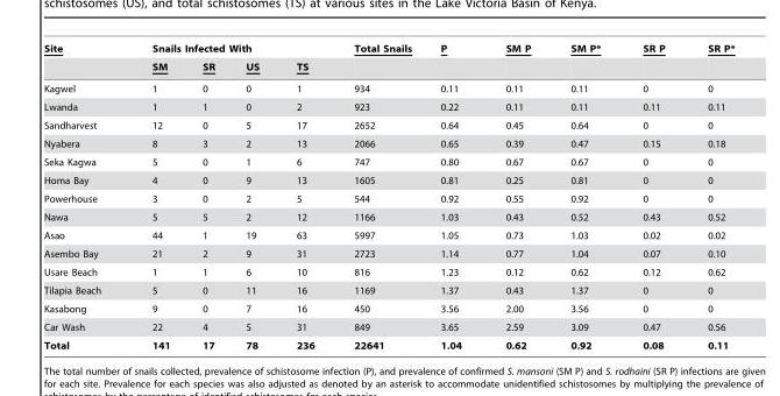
<table><thead><tr><td rowspan="2">Site</td><td colspan="4">Snails Infected With</td><td rowspan="2">Total Snails</td><td rowspan="2">P</td><td rowspan="2">SM P</td><td rowspan="2">SM P*</td><td rowspan="2">SR P</td><td rowspan="2">SR P*</td></tr><tr><td>SM</td><td>SR</td><td>US</td><td>TS</td></tr></thead><tbody><tr><td>Kagwel</td><td>1</td><td>0</td><td>0</td><td>1</td><td>934</td><td>0.11</td><td>0.11</td><td>0.11</td><td>0</td><td>0</td></tr><tr><td>Lwanda</td><td>1</td><td>1</td><td>0</td><td>2</td><td>923</td><td>0.22</td><td>0.11</td><td>0.11</td><td>0.11</td><td>0.11</td></tr><tr><td>Sandharvest</td><td>12</td><td>0</td><td>5</td><td>17</td><td>2652</td><td>0.64</td><td>0.45</td><td>0.64</td><td>0</td><td>0</td></tr><tr><td>Nyabera</td><td>8</td><td>3</td><td>2</td><td>13</td><td>2066</td><td>0.65</td><td>0.39</td><td>0.47</td><td>0.15</td><td>0.18</td></tr><tr><td>Seka Kagwa</td><td>5</td><td>0</td><td>1</td><td>6</td><td>747</td><td>0.80</td><td>0.67</td><td>0.67</td><td>0</td><td>0</td></tr><tr><td>Homa Bay</td><td>4</td><td>0</td><td>9</td><td>13</td><td>1605</td><td>0.81</td><td>0.25</td><td>0.81</td><td>0</td><td>0</td></tr><tr><td>Powerhouse</td><td>3</td><td>0</td><td>2</td><td>5</td><td>544</td><td>0.92</td><td>0.55</td><td>0.92</td><td>0</td><td>0</td></tr><tr><td>Nawa</td><td>5</td><td>5</td><td>2</td><td>12</td><td>1166</td><td>1.03</td><td>0.43</td><td>0.52</td><td>0.43</td><td>0.52</td></tr><tr><td>Asao</td><td>44</td><td>1</td><td>19</td><td>63</td><td>5997</td><td>1.05</td><td>0.73</td><td>1.03</td><td>0.02</td><td>0.02</td></tr><tr><td>Asembo Bay</td><td>21</td><td>2</td><td>9</td><td>31</td><td>2723</td><td>1.14</td><td>0.77</td><td>1.04</td><td>0.07</td><td>0.10</td></tr><tr><td>Usare Beach</td><td>1</td><td>1</td><td>6</td><td>10</td><td>816</td><td>1.23</td><td>0.12</td><td>0.62</td><td>0.12</td><td>0.62</td></tr><tr><td>Tilapia Beach</td><td>5</td><td>0</td><td>11</td><td>16</td><td>1169</td><td>1.37</td><td>0.43</td><td>1.37</td><td>0</td><td>0</td></tr><tr><td>Kasabong</td><td>9</td><td>0</td><td>7</td><td>16</td><td>450</td><td>3.56</td><td>2.00</td><td>3.56</td><td>0</td><td>0</td></tr><tr><td>Car Wash</td><td>22</td><td>4</td><td>5</td><td>31</td><td>849</td><td>3.65</td><td>2.59</td><td>3.09</td><td>0.47</td><td>0.56</td></tr><tr><td>Total</td><td>141</td><td>17</td><td>78</td><td>236</td><td>22641</td><td>1.04</td><td>0.62</td><td>0.92</td><td>0.08</td><td>0.11</td></tr></tbody></table>